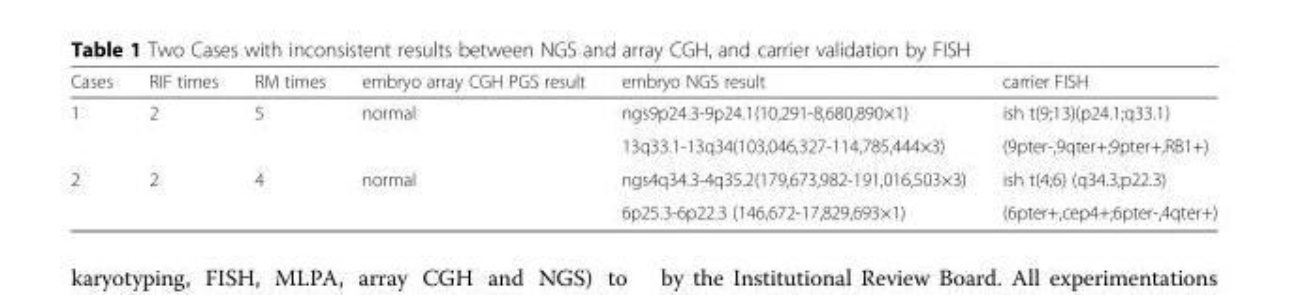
<table><thead><tr><td>Cases</td><td>RIF times</td><td>RM times</td><td>embryo array CGH PGS result</td><td>embryo NGS result</td><td>carrier FISH</td></tr></thead><tbody><tr><td rowspan="2">1</td><td>2</td><td>5</td><td>normal</td><td>ngs9p24.3-9p24.1(10,291-8,680,890×1)</td><td>ish t(9;13)(p24.1;q33.1)</td></tr><tr><td></td><td></td><td></td><td>13q33.1-13q34(103,046,327-114,785,444×3)</td><td>(9pter-,9qter+;9pter+,RB1+)</td></tr><tr><td rowspan="2">2</td><td>2</td><td>4</td><td>normal</td><td>ngs4q34.3-4q35.2(179,673,982-191,016,503×3)</td><td>ish t(4;6) (q34.3;p22.3)</td></tr><tr><td></td><td></td><td></td><td>6p25.3-6p22.3 (146,672-17,829,693×1)</td><td>(6pter+,cep4+;6pter-,4qter+)</td></tr></tbody></table>